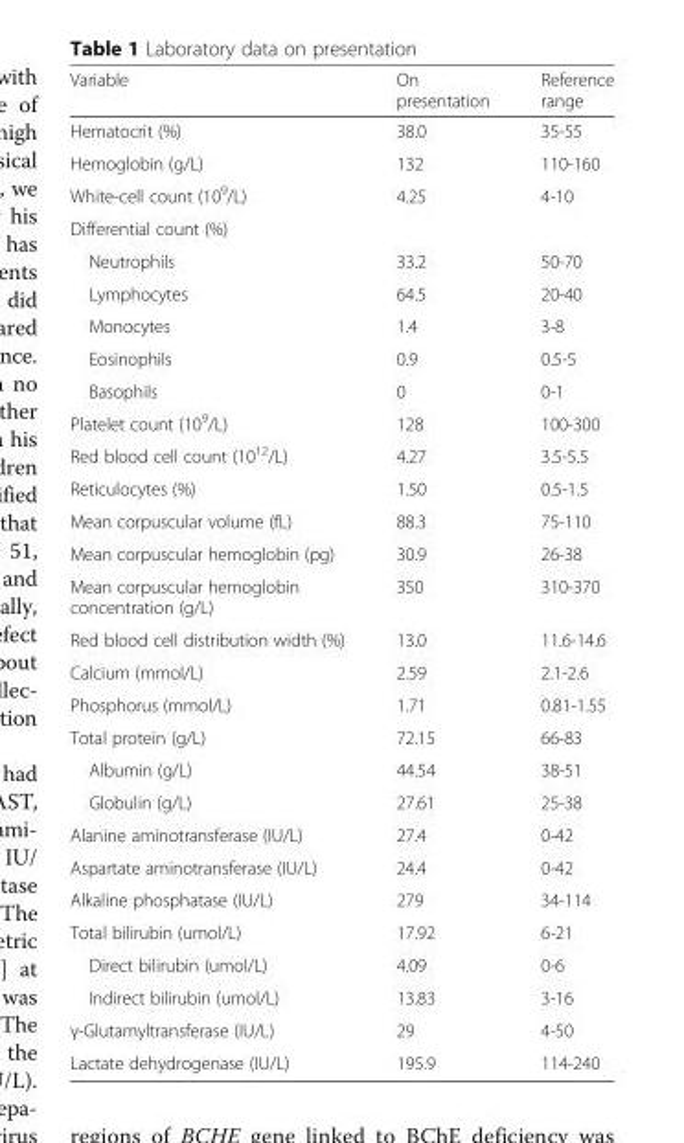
<table><thead><tr><td>Variable</td><td>On presentation</td><td>Reference range</td></tr></thead><tbody><tr><td>Hematocrit (%)</td><td>38.0</td><td>35-55</td></tr><tr><td>Hemoglobin (g/L)</td><td>132</td><td>110-160</td></tr><tr><td>White-cell count (10<sup>9</sup>/L)</td><td>4.25</td><td>4-10</td></tr><tr><td colspan="3">Differential count (%)</td></tr><tr><td>Neutrophils</td><td>33.2</td><td>50-70</td></tr><tr><td>Lymphocytes</td><td>64.5</td><td>20-40</td></tr><tr><td>Monocytes</td><td>1.4</td><td>3-8</td></tr><tr><td>Eosinophils</td><td>0.9</td><td>0.5-5</td></tr><tr><td>Basophils</td><td>0</td><td>0-1</td></tr><tr><td>Platelet count (10<sup>9</sup>/L)</td><td>128</td><td>100-300</td></tr><tr><td>Red blood cell count (10<sup>12</sup>/L)</td><td>4.27</td><td>3.5-5.5</td></tr><tr><td>Reticulocytes (%)</td><td>1.50</td><td>0.5-1.5</td></tr><tr><td>Mean corpuscular volume (fL)</td><td>88.3</td><td>75-110</td></tr><tr><td>Mean corpuscular hemoglobin (pg)</td><td>30.9</td><td>26-38</td></tr><tr><td>Mean corpuscular hemoglobin concentration (g/L)</td><td>350</td><td>310-370</td></tr><tr><td>Red blood cell distribution width (%)</td><td>13.0</td><td>11.6-14.6</td></tr><tr><td>Calcium (mmol/L)</td><td>2.59</td><td>2.1-2.6</td></tr><tr><td>Phosphorus (mmol/L)</td><td>1.71</td><td>0.81-1.55</td></tr><tr><td>Total protein (g/L)</td><td>72.15</td><td>66-83</td></tr><tr><td>Albumin (g/L)</td><td>44.54</td><td>38-51</td></tr><tr><td>Globulin (g/L)</td><td>27.61</td><td>25-38</td></tr><tr><td>Alanine aminotransferase (IU/L)</td><td>27.4</td><td>0-42</td></tr><tr><td>Aspartate aminotransferase (IU/L)</td><td>24.4</td><td>0-42</td></tr><tr><td>Alkaline phosphatase (IU/L)</td><td>279</td><td>34-114</td></tr><tr><td>Total bilirubin (umol/L)</td><td>17.92</td><td>6-21</td></tr><tr><td>Direct bilirubin (umol/L)</td><td>4.09</td><td>0-6</td></tr><tr><td>Indirect bilirubin (umol/L)</td><td>13.83</td><td>3-16</td></tr><tr><td>γ-Glutamyltransferase (IU/L)</td><td>29</td><td>4-50</td></tr><tr><td>Lactate dehydrogenase (IU/L)</td><td>195.9</td><td>114-240</td></tr></tbody></table>